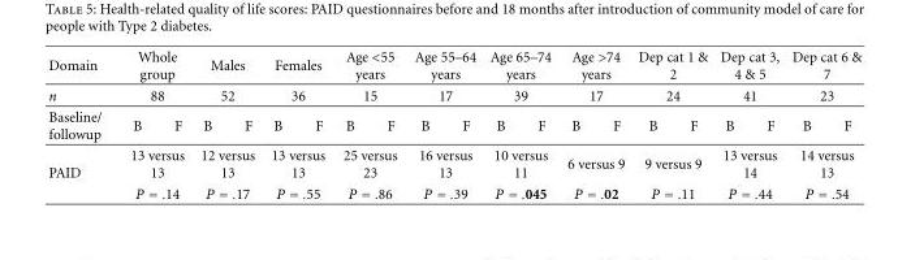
<table><thead><tr><td>Domain</td><td>Whole group</td><td>Males</td><td>Females</td><td>Age &lt;55 years</td><td>Age 55–64 years</td><td>Age 65–74 years</td><td>Age &gt;74 years</td><td>Dep cat 1 &amp; 2</td><td>Dep cat 3, 4 &amp; 5</td><td>Dep cat 6 &amp; 7</td></tr></thead><tbody><tr><td>n</td><td>88</td><td>52</td><td>36</td><td>15</td><td>17</td><td>39</td><td>17</td><td>24</td><td>41</td><td>23</td></tr><tr><td>Baseline/ followup</td><td>B F</td><td>B F</td><td>B F</td><td>B F</td><td>B F</td><td>B F</td><td>B F</td><td>B F</td><td>B F</td><td>B F</td></tr><tr><td rowspan="2">PAID</td><td>13 versus 13</td><td>12 versus 13</td><td>13 versus 13</td><td>25 versus 23</td><td>16 versus 13</td><td>10 versus 11</td><td>6 versus 9</td><td>9 versus 9</td><td>13 versus 14</td><td>14 versus 13</td></tr><tr><td>P = .14</td><td>P = .17</td><td>P = .55</td><td>P = .86</td><td>P = .39</td><td>P = .045</td><td>P = .02</td><td>P = .11</td><td>P = .44</td><td>P = .54</td></tr></tbody></table>